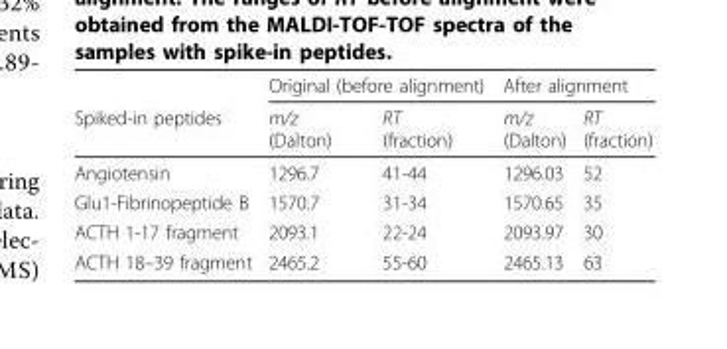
<table><thead><tr><td rowspan="2">Spiked-in peptides</td><td colspan="2">Original (before alignment)</td><td colspan="2">After alignment</td></tr><tr><td>m/z (Dalton)</td><td>RT (fraction)</td><td>m/z (Dalton)</td><td>RT (fraction)</td></tr></thead><tbody><tr><td>Angiotensin</td><td>1296.7</td><td>41-44</td><td>1296.03</td><td>52</td></tr><tr><td>Glu1-Fibrinopeptide B</td><td>1570.7</td><td>31-34</td><td>1570.65</td><td>35</td></tr><tr><td>ACTH 1-17 fragment</td><td>2093.1</td><td>22-24</td><td>2093.97</td><td>30</td></tr><tr><td>ACTH 18–39 fragment</td><td>2465.2</td><td>55-60</td><td>2465.13</td><td>63</td></tr></tbody></table>